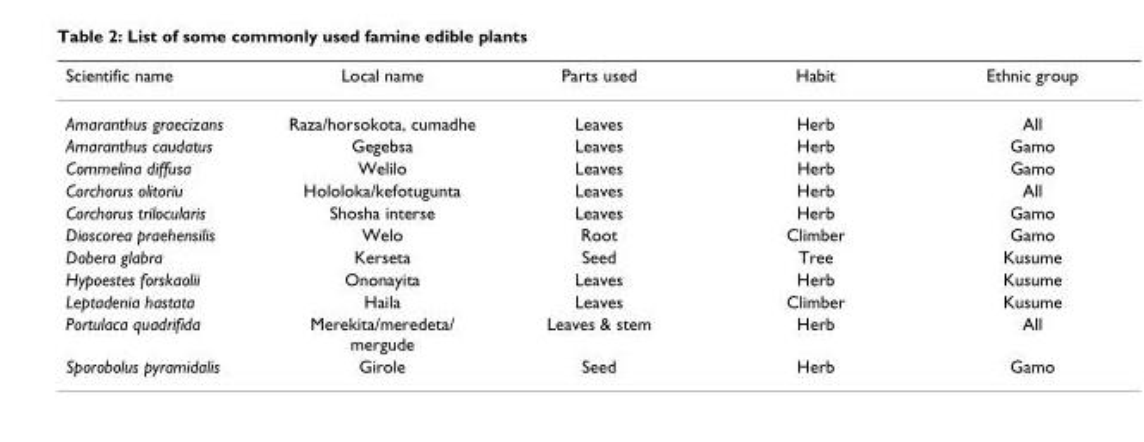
<table><thead><tr><td>Scientific name</td><td>Local name</td><td>Parts used</td><td>Habit</td><td>Ethnic group</td></tr></thead><tbody><tr><td>Amaranthus graecizans</td><td>Raza/horsokota, cumadhe</td><td>Leaves</td><td>Herb</td><td>All</td></tr><tr><td>Amaranthus caudatus</td><td>Gegebsa</td><td>Leaves</td><td>Herb</td><td>Gamo</td></tr><tr><td>Commelina diffusa</td><td>Welilo</td><td>Leaves</td><td>Herb</td><td>Gamo</td></tr><tr><td>Corchorus olitoriu</td><td>Hololoka/kefotugunta</td><td>Leaves</td><td>Herb</td><td>All</td></tr><tr><td>Corchorus trilocularis</td><td>Shosha interse</td><td>Leaves</td><td>Herb</td><td>Gamo</td></tr><tr><td>Dioscorea praehensilis</td><td>Welo</td><td>Root</td><td>Climber</td><td>Gamo</td></tr><tr><td>Dobera glabra</td><td>Kerseta</td><td>Seed</td><td>Tree</td><td>Kusume</td></tr><tr><td>Hypoestes forskaolii</td><td>Ononayita</td><td>Leaves</td><td>Herb</td><td>Kusume</td></tr><tr><td>Leptadenia hastata</td><td>Haila</td><td>Leaves</td><td>Climber</td><td>Kusume</td></tr><tr><td>Portulaca quadrifida</td><td>Merekita/meredeta/ mergude</td><td>Leaves &amp; stem</td><td>Herb</td><td>All</td></tr><tr><td>Sporobolus pyramidalis</td><td>Girole</td><td>Seed</td><td>Herb</td><td>Gamo</td></tr></tbody></table>